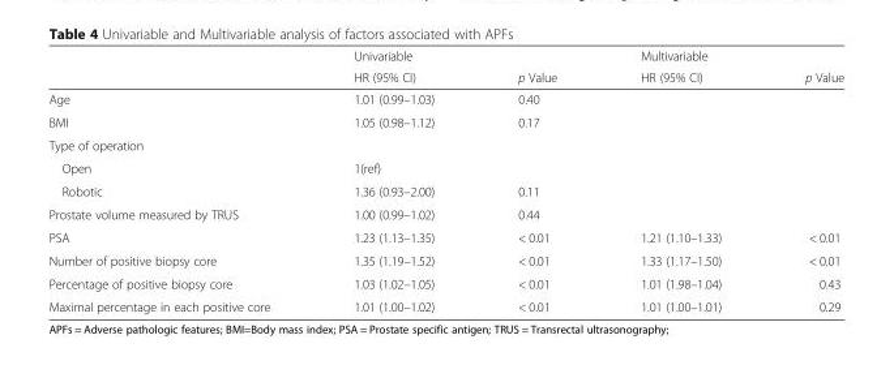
<table><thead><tr><td rowspan="2"></td><td rowspan="2">Univariable HR (95% CI)</td><td rowspan="2">p Value</td><td rowspan="2">Multivariable HR (95% CI)</td><td rowspan="2">p Value</td></tr><tr></tr></thead><tbody><tr><td>Age</td><td>1.01 (0.99–1.03)</td><td>0.40</td><td></td><td></td></tr><tr><td>BMI</td><td>1.05 (0.98–1.12)</td><td>0.17</td><td></td><td></td></tr><tr><td colspan="5">Type of operation</td></tr><tr><td>Open</td><td>1(ref)</td><td></td><td></td><td></td></tr><tr><td>Robotic</td><td>1.36 (0.93–2.00)</td><td>0.11</td><td></td><td></td></tr><tr><td>Prostate volume measured by TRUS</td><td>1.00 (0.99–1.02)</td><td>0.44</td><td></td><td></td></tr><tr><td>PSA</td><td>1.23 (1.13–1.35)</td><td>&lt; 0.01</td><td>1.21 (1.10–1.33)</td><td>&lt; 0.01</td></tr><tr><td>Number of positive biopsy core</td><td>1.35 (1.19–1.52)</td><td>&lt; 0.01</td><td>1.33 (1.17–1.50)</td><td>&lt; 0.01</td></tr><tr><td>Percentage of positive biopsy core</td><td>1.03 (1.02–1.05)</td><td>&lt; 0.01</td><td>1.01 (1.98–1.04)</td><td>0.43</td></tr><tr><td>Maximal percentage in each positive core</td><td>1.01 (1.00–1.02)</td><td>&lt; 0.01</td><td>1.01 (1.00–1.01)</td><td>0.29</td></tr></tbody></table>